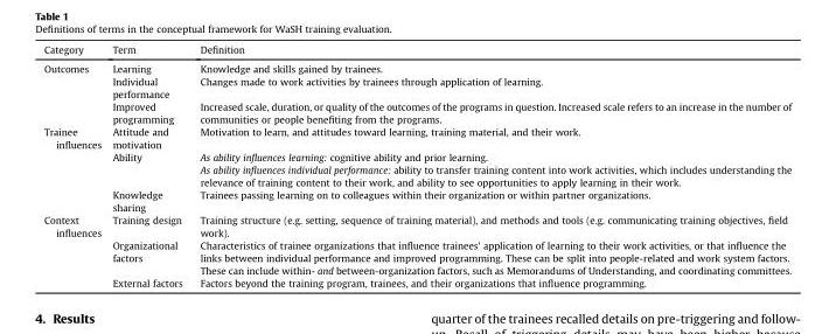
<table><thead><tr><td>Category</td><td>Term</td><td>Definition</td></tr></thead><tbody><tr><td rowspan="3">Outcomes</td><td>Learning</td><td>Knowledge and skills gained by trainees.</td></tr><tr><td>Individual performance</td><td>Changes made to work activities by trainees through application of learning.</td></tr><tr><td>Improved programming</td><td>Increased scale, duration, or quality of the outcomes of the programs in question. Increased scale refers to an increase in the number of communities or people benefiting from the programs.</td></tr><tr><td rowspan="3">Trainee influences</td><td>Attitude and motivation</td><td>Motivation to learn, and attitudes toward learning, training material, and their work.</td></tr><tr><td>Ability</td><td>As ability influences learning: cognitive ability and prior learning. As ability influences individual performance: ability to transfer training content into work activities, which includes understanding the relevance of training content to their work, and ability to see opportunities to apply learning in their work.</td></tr><tr><td>Knowledge sharing</td><td>Trainees passing learning on to colleagues within their organization or within partner organizations.</td></tr><tr><td rowspan="3">Context influences</td><td>Training design</td><td>Training structure (e.g. setting, sequence of training material), and methods and tools (e.g. communicating training objectives, field work).</td></tr><tr><td>Organizational factors</td><td>Characteristics of trainee organizations that influence trainees&#x27; application of learning to their work activities, or that influence the links between individual performance and improved programming. These can be split into people-related and work system factors. These can include within- and between-organization factors, such as Memorandums of Understanding, and coordinating committees.</td></tr><tr><td>External factors</td><td>Factors beyond the training program, trainees, and their organizations that influence programming.</td></tr></tbody></table>